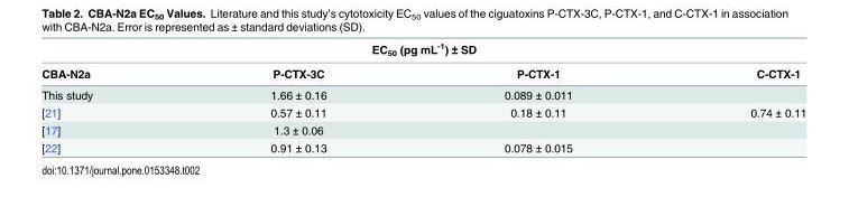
<table><thead><tr><td colspan="4">EC<sub>50</sub> (pg mL<sup>-1</sup>) ± SD</td></tr><tr><td>CBA-N2a</td><td>P-CTX-3C</td><td>P-CTX-1</td><td>C-CTX-1</td></tr></thead><tbody><tr><td>This study</td><td>1.66 ± 0.16</td><td>0.089 ± 0.011</td><td></td></tr><tr><td>[21]</td><td>0.57 ± 0.11</td><td>0.18 ± 0.11</td><td>0.74 ± 0.11</td></tr><tr><td>[17]</td><td>1.3 ± 0.06</td><td></td><td></td></tr><tr><td>[22]</td><td>0.91 ± 0.13</td><td>0.078 ± 0.015</td><td></td></tr></tbody></table>